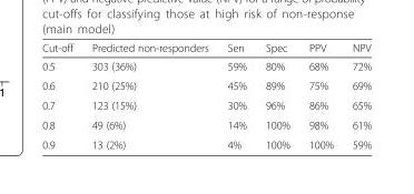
<table><thead><tr><td>Cut-off</td><td>Predicted non-responders</td><td>Sen</td><td>Spec</td><td>PPV</td><td>NPV</td></tr></thead><tbody><tr><td>0.5</td><td>303 (36%)</td><td>59%</td><td>80%</td><td>68%</td><td>72%</td></tr><tr><td>0.6</td><td>210 (25%)</td><td>45%</td><td>89%</td><td>75%</td><td>69%</td></tr><tr><td>0.7</td><td>123 (15%)</td><td>30%</td><td>96%</td><td>86%</td><td>65%</td></tr><tr><td>0.8</td><td>49 (6%)</td><td>14%</td><td>100%</td><td>98%</td><td>61%</td></tr><tr><td>0.9</td><td>13 (2%)</td><td>4%</td><td>100%</td><td>100%</td><td>59%</td></tr></tbody></table>